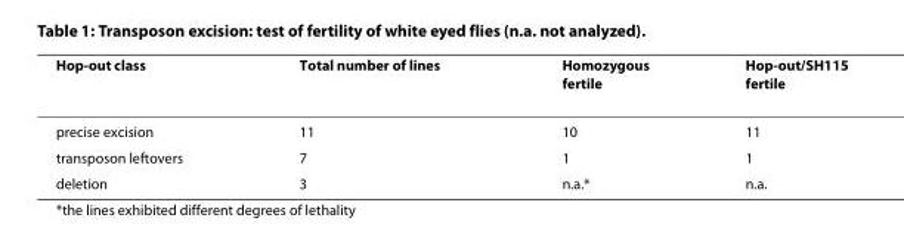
<table><thead><tr><td>Hop-out class</td><td>Total number of lines</td><td>Homozygous fertile</td><td>Hop-out/SH115 fertile</td></tr></thead><tbody><tr><td>precise excision</td><td>11</td><td>10</td><td>11</td></tr><tr><td>transposon leftovers</td><td>7</td><td>1</td><td>1</td></tr><tr><td>deletion</td><td>3</td><td>n.a.*</td><td>n.a.</td></tr></tbody></table>